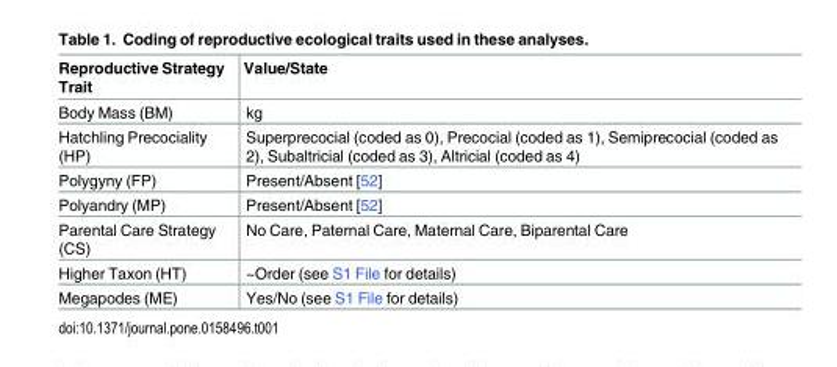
<table><thead><tr><td>Reproductive Strategy Trait</td><td>Value/State</td></tr></thead><tbody><tr><td>Body Mass (BM)</td><td>kg</td></tr><tr><td>Hatchling Precociality (HP)</td><td>Superprecocial (coded as 0), Precocial (coded as 1), Semiprecocial (coded as 2), Subaltricial (coded as 3), Altricial (coded as 4)</td></tr><tr><td>Polygyny (FP)</td><td>Present/Absent [52]</td></tr><tr><td>Polyandry (MP)</td><td>Present/Absent [52]</td></tr><tr><td>Parental Care Strategy (CS)</td><td>No Care, Paternal Care, Maternal Care, Biparental Care</td></tr><tr><td>Higher Taxon (HT)</td><td>~Order (see S1 File for details)</td></tr><tr><td>Megapodes (ME)</td><td>Yes/No (see S1 File for details)</td></tr></tbody></table>